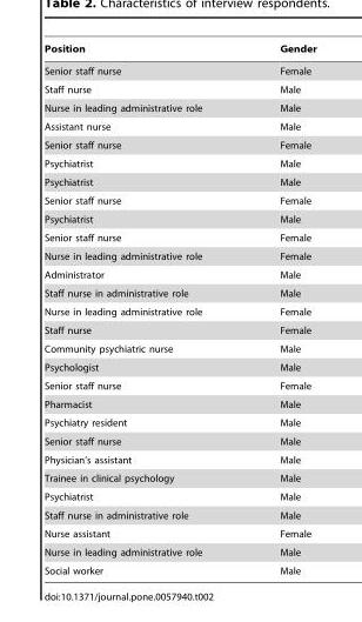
<table><thead><tr><td>Position</td><td>Gender</td></tr></thead><tbody><tr><td>Senior staff nurse</td><td>Female</td></tr><tr><td>Staff nurse</td><td>Male</td></tr><tr><td>Nurse in leading administrative role</td><td>Male</td></tr><tr><td>Assistant nurse</td><td>Male</td></tr><tr><td>Senior staff nurse</td><td>Female</td></tr><tr><td>Psychiatrist</td><td>Male</td></tr><tr><td>Psychiatrist</td><td>Male</td></tr><tr><td>Senior staff nurse</td><td>Female</td></tr><tr><td>Psychiatrist</td><td>Male</td></tr><tr><td>Senior staff nurse</td><td>Female</td></tr><tr><td>Nurse in leading administrative role</td><td>Female</td></tr><tr><td>Administrator</td><td>Male</td></tr><tr><td>Staff nurse in administrative role</td><td>Male</td></tr><tr><td>Nurse in leading administrative role</td><td>Female</td></tr><tr><td>Staff nurse</td><td>Female</td></tr><tr><td>Community psychiatric nurse</td><td>Male</td></tr><tr><td>Psychologist</td><td>Male</td></tr><tr><td>Senior staff nurse</td><td>Female</td></tr><tr><td>Pharmacist</td><td>Male</td></tr><tr><td>Psychiatry resident</td><td>Male</td></tr><tr><td>Senior staff nurse</td><td>Male</td></tr><tr><td>Physician’s assistant</td><td>Male</td></tr><tr><td>Trainee in clinical psychology</td><td>Male</td></tr><tr><td>Psychiatrist</td><td>Male</td></tr><tr><td>Staff nurse in administrative role</td><td>Male</td></tr><tr><td>Nurse assistant</td><td>Female</td></tr><tr><td>Nurse in leading administrative role</td><td>Male</td></tr><tr><td>Social worker</td><td>Male</td></tr></tbody></table>